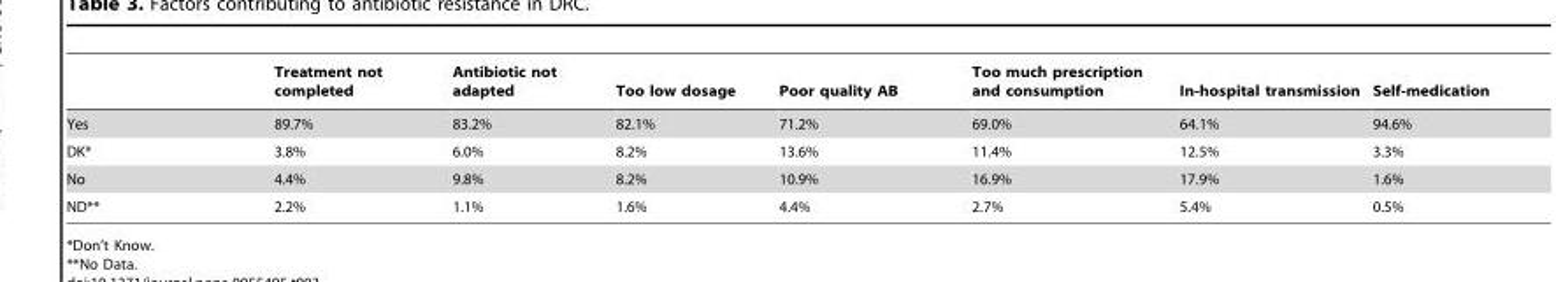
<table><thead><tr><td></td><td>Treatment not completed</td><td>Antibiotic not adapted</td><td>Too low dosage</td><td>Poor quality AB</td><td>Too much prescription and consumption</td><td>In-hospital transmission</td><td>Self-medication</td></tr></thead><tbody><tr><td>Yes</td><td>89.7%</td><td>83.2%</td><td>82.1%</td><td>71.2%</td><td>69.0%</td><td>64.1%</td><td>94.6%</td></tr><tr><td>DK*</td><td>3.8%</td><td>6.0%</td><td>8.2%</td><td>13.6%</td><td>11.4%</td><td>12.5%</td><td>3.3%</td></tr><tr><td>No</td><td>4.4%</td><td>9.8%</td><td>8.2%</td><td>10.9%</td><td>16.9%</td><td>17.9%</td><td>1.6%</td></tr><tr><td>ND**</td><td>2.2%</td><td>1.1%</td><td>1.6%</td><td>4.4%</td><td>2.7%</td><td>5.4%</td><td>0.5%</td></tr></tbody></table>